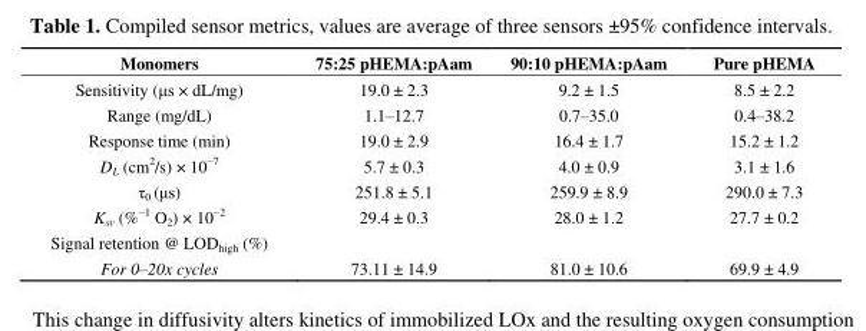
<table><thead><tr><td>Monomers</td><td>75:25 pHEMA:pAam</td><td>90:10 pHEMA:pAam</td><td>Pure pHEMA</td></tr></thead><tbody><tr><td>Sensitivity (μs × dL/mg)</td><td>19.0 ± 2.3</td><td>9.2 ± 1.5</td><td>8.5 ± 2.2</td></tr><tr><td>Range (mg/dL)</td><td>1.1–12.7</td><td>0.7–35.0</td><td>0.4–38.2</td></tr><tr><td>Response time (min)</td><td>19.0 ± 2.9</td><td>16.4 ± 1.7</td><td>15.2 ± 1.2</td></tr><tr><td>D<sub>L</sub> (cm<sup>2</sup>/s) × 10<sup>−7</sup></td><td>5.7 ± 0.3</td><td>4.0 ± 0.9</td><td>3.1 ± 1.6</td></tr><tr><td>τ<sub>0</sub> (μs)</td><td>251.8 ± 5.1</td><td>259.9 ± 8.9</td><td>290.0 ± 7.3</td></tr><tr><td>K<sub>sv</sub> (%<sup>−1</sup> O<sub>2</sub>) × 10<sup>−2</sup></td><td>29.4 ± 0.3</td><td>28.0 ± 1.2</td><td>27.7 ± 0.2</td></tr><tr><td colspan="4">Signal retention @ LOD<sub>high</sub> (%)</td></tr><tr><td>For 0–20x cycles</td><td>73.11 ± 14.9</td><td>81.0 ± 10.6</td><td>69.9 ± 4.9</td></tr></tbody></table>